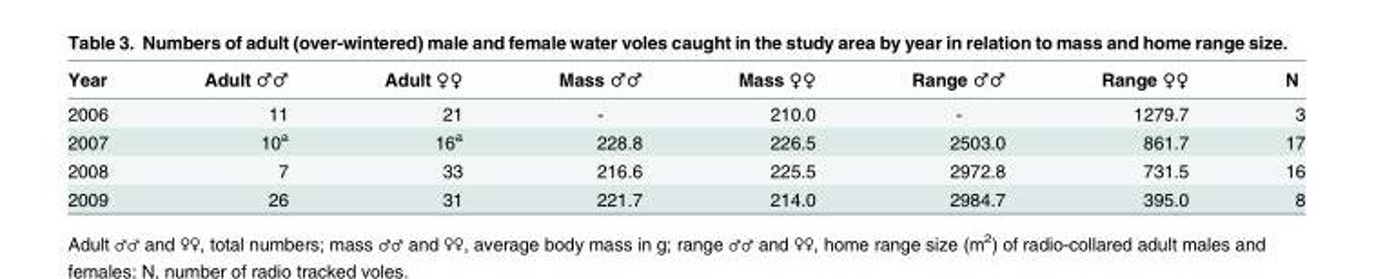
<table><thead><tr><td>Year</td><td>Adult ♂♂</td><td>Adult ♀♀</td><td>Mass ♂♂</td><td>Mass ♀♀</td><td>Range ♂♂</td><td>Range ♀♀</td><td>N</td></tr></thead><tbody><tr><td>2006</td><td>11</td><td>21</td><td>-</td><td>210.0</td><td>-</td><td>1279.7</td><td>3</td></tr><tr><td>2007</td><td>10<sup>a</sup></td><td>16<sup>a</sup></td><td>228.8</td><td>226.5</td><td>2503.0</td><td>861.7</td><td>17</td></tr><tr><td>2008</td><td>7</td><td>33</td><td>216.6</td><td>225.5</td><td>2972.8</td><td>731.5</td><td>16</td></tr><tr><td>2009</td><td>26</td><td>31</td><td>221.7</td><td>214.0</td><td>2984.7</td><td>395.0</td><td>8</td></tr></tbody></table>